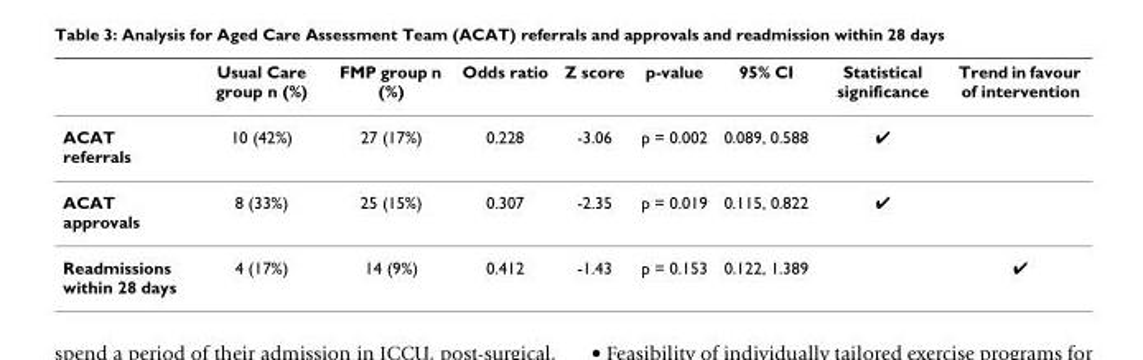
<table><thead><tr><td></td><td>Usual Care group n (%)</td><td>FMP group n (%)</td><td>Odds ratio</td><td>Z score</td><td>p-value</td><td>95% CI</td><td>Statistical significance</td><td>Trend in favour of intervention</td></tr></thead><tbody><tr><td>ACAT referrals</td><td>10 (42%)</td><td>27 (17%)</td><td>0.228</td><td>-3.06</td><td>p = 0.002</td><td>0.089, 0.588</td><td>✔</td><td></td></tr><tr><td>ACAT approvals</td><td>8 (33%)</td><td>25 (15%)</td><td>0.307</td><td>-2.35</td><td>p = 0.019</td><td>0.115, 0.822</td><td>✔</td><td></td></tr><tr><td>Readmissions within 28 days</td><td>4 (17%)</td><td>14 (9%)</td><td>0.412</td><td>-1.43</td><td>p = 0.153</td><td>0.122, 1.389</td><td></td><td>✔</td></tr></tbody></table>